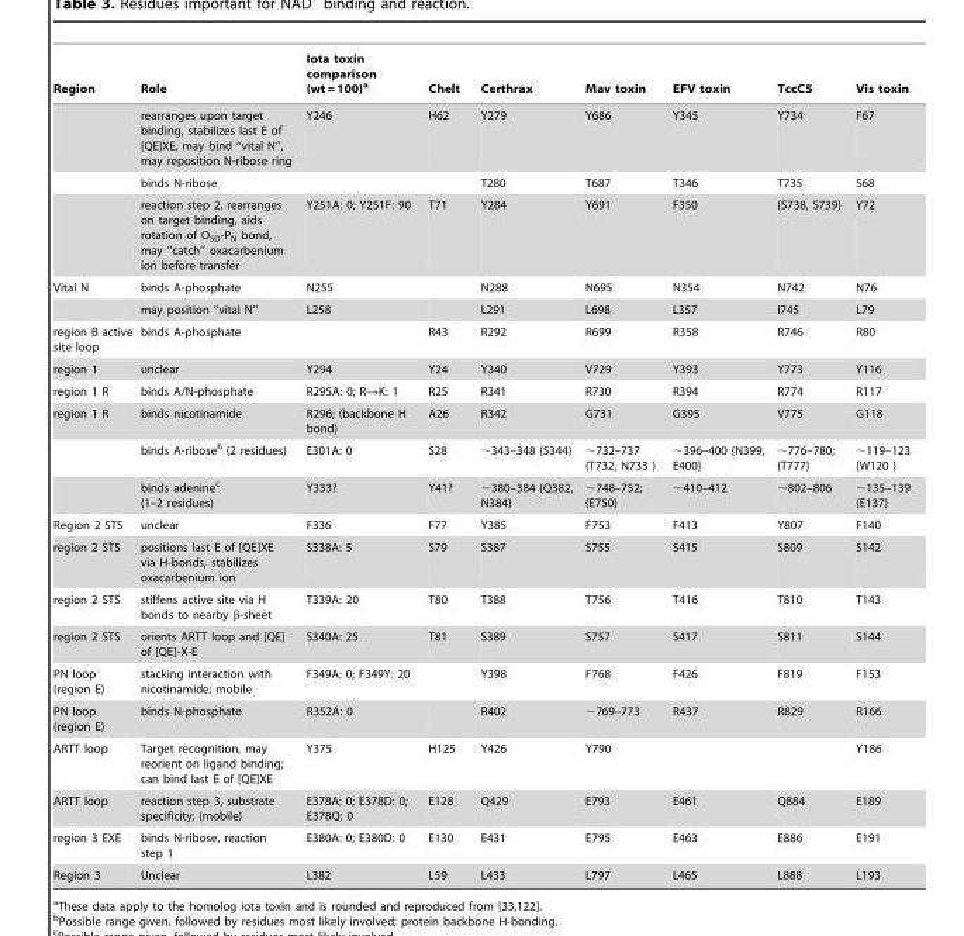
<table><thead><tr><td>Region</td><td>Role</td><td>Iota toxin comparison (wt = 100)<sup>a</sup></td><td>Chelt</td><td>Certhrax</td><td>Mav toxin</td><td>EFV toxin</td><td>TccC5</td><td>Vis toxin</td></tr></thead><tbody><tr><td></td><td>rearranges upon target binding, stabilizes last E of [QE]XE, may bind ‘‘vital N’’, may reposition N-ribose ring</td><td>Y246</td><td>H62</td><td>Y279</td><td>Y686</td><td>Y345</td><td>Y734</td><td>F67</td></tr><tr><td></td><td>binds N-ribose</td><td></td><td></td><td>T280</td><td>T687</td><td>T346</td><td>T735</td><td>S68</td></tr><tr><td></td><td>reaction step 2, rearranges on target binding, aids rotation of O5D-PN bond, may ‘‘catch’’ oxacarbenium ion before transfer</td><td>Y251A: 0; Y251F: 90</td><td>T71</td><td>Y284</td><td>Y691</td><td>F350</td><td>{S738, S739}</td><td>Y72</td></tr><tr><td rowspan="2">Vital N</td><td>binds A-phosphate</td><td>N255</td><td></td><td>N288</td><td>N695</td><td>N354</td><td>N742</td><td>N76</td></tr><tr><td>may position ‘‘vital N’’</td><td>L258</td><td></td><td>L291</td><td>L698</td><td>L357</td><td>I745</td><td>L79</td></tr><tr><td>region B active site loop</td><td>binds A-phosphate</td><td></td><td>R43</td><td>R292</td><td>R699</td><td>R358</td><td>R746</td><td>R80</td></tr><tr><td>region 1</td><td>unclear</td><td>Y294</td><td>Y24</td><td>Y340</td><td>V729</td><td>Y393</td><td>Y773</td><td>Y116</td></tr><tr><td>region 1 R</td><td>binds A/N-phosphate</td><td>R295A: 0; R→K: 1</td><td>R25</td><td>R341</td><td>R730</td><td>R394</td><td>R774</td><td>R117</td></tr><tr><td rowspan="3">region 1 R</td><td>binds nicotinamide</td><td>R296; (backbone H bond)</td><td>A26</td><td>R342</td><td>G731</td><td>G395</td><td>V775</td><td>G118</td></tr><tr><td>binds A-ribose<sup>b</sup> (2 residues)</td><td>E301A: 0</td><td>S28</td><td>,343–348 {S344}</td><td>,732–737 {T732, N733 }</td><td>,396–400 {N399, E400}</td><td>,776–780; {T777}</td><td>,119–123 {W120 }</td></tr><tr><td>binds adenine<sup>c</sup> (1–2 residues)</td><td>Y333?</td><td>Y41?</td><td>,380–384 {Q382, N384}</td><td>,748–752; {E750}</td><td>∼410–412</td><td>∼802–806</td><td>,135–139 {E137}</td></tr><tr><td>Region 2 STS</td><td>unclear</td><td>F336</td><td>F77</td><td>Y385</td><td>F753</td><td>F413</td><td>Y807</td><td>F140</td></tr><tr><td>region 2 STS</td><td>positions last E of [QE]XE via H-bonds, stabilizes oxacarbenium ion</td><td>S338A: 5</td><td>S79</td><td>S387</td><td>S755</td><td>S415</td><td>S809</td><td>S142</td></tr><tr><td>region 2 STS</td><td>stiffens active site via H bonds to nearby β-sheet</td><td>T339A: 20</td><td>T80</td><td>T388</td><td>T756</td><td>T416</td><td>T810</td><td>T143</td></tr><tr><td>region 2 STS</td><td>orients ARTT loop and [QE] of [QE]-X-E</td><td>S340A: 25</td><td>T81</td><td>S389</td><td>S757</td><td>S417</td><td>S811</td><td>S144</td></tr><tr><td>PN loop (region E)</td><td>stacking interaction with nicotinamide; mobile</td><td>F349A: 0; F349Y: 20</td><td></td><td>Y398</td><td>F768</td><td>F426</td><td>F819</td><td>F153</td></tr><tr><td>PN loop (region E)</td><td>binds N-phosphate</td><td>R352A: 0</td><td></td><td>R402</td><td>∼769–773</td><td>R437</td><td>R829</td><td>R166</td></tr><tr><td>ARTT loop</td><td>Target recognition, may reorient on ligand binding; can bind last E of [QE]XE</td><td>Y375</td><td>H125</td><td>Y426</td><td>Y790</td><td></td><td></td><td>Y186</td></tr><tr><td>ARTT loop</td><td>reaction step 3, substrate specificity; (mobile)</td><td>E378A: 0; E378D: 0; E378Q: 0</td><td>E128</td><td>Q429</td><td>E793</td><td>E461</td><td>Q884</td><td>E189</td></tr><tr><td>region 3 EXE</td><td>binds N-ribose, reaction step 1</td><td>E380A: 0; E380D: 0</td><td>E130</td><td>E431</td><td>E795</td><td>E463</td><td>E886</td><td>E191</td></tr><tr><td>Region 3</td><td>Unclear</td><td>L382</td><td>L59</td><td>L433</td><td>L797</td><td>L465</td><td>L888</td><td>L193</td></tr></tbody></table>